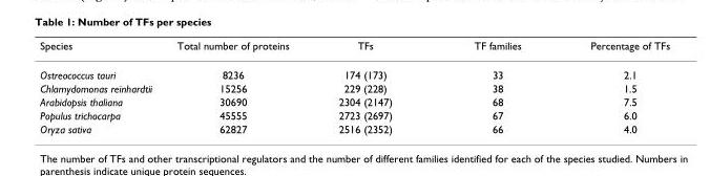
<table><thead><tr><td>Species</td><td>Total number of proteins</td><td>TFs</td><td>TF families</td><td>Percentage of TFs</td></tr></thead><tbody><tr><td>Ostreococcus tauri</td><td>8236</td><td>174 (173)</td><td>33</td><td>2.1</td></tr><tr><td>Chlamydomonas reinhardtii</td><td>15256</td><td>229 (228)</td><td>38</td><td>1.5</td></tr><tr><td>Arabidopsis thaliana</td><td>30690</td><td>2304 (2147)</td><td>68</td><td>7.5</td></tr><tr><td>Populus trichocarpa</td><td>45555</td><td>2723 (2697)</td><td>67</td><td>6.0</td></tr><tr><td>Oryza sativa</td><td>62827</td><td>2516 (2352)</td><td>66</td><td>4.0</td></tr></tbody></table>